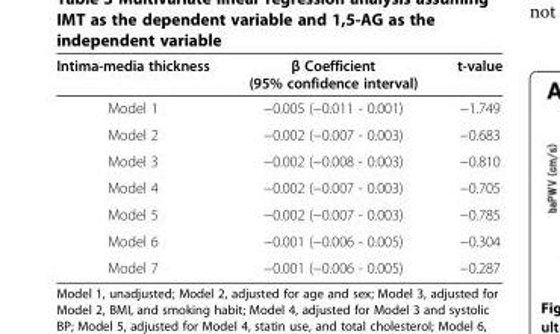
<table><thead><tr><td>Intima-media thickness</td><td>β Coefficient (95% confidence interval)</td><td>t-value</td></tr></thead><tbody><tr><td>Model 1</td><td>−0.005 (−0.011 - 0.001)</td><td>−1.749</td></tr><tr><td>Model 2</td><td>−0.002 (−0.007 - 0.003)</td><td>−0.683</td></tr><tr><td>Model 3</td><td>−0.002 (−0.008 - 0.003)</td><td>−0.810</td></tr><tr><td>Model 4</td><td>−0.002 (−0.007 - 0.003)</td><td>−0.705</td></tr><tr><td>Model 5</td><td>−0.002 (−0.007 - 0.003)</td><td>−0.785</td></tr><tr><td>Model 6</td><td>−0.001 (−0.006 - 0.005)</td><td>−0.304</td></tr><tr><td>Model 7</td><td>−0.001 (−0.006 - 0.005)</td><td>−0.287</td></tr></tbody></table>